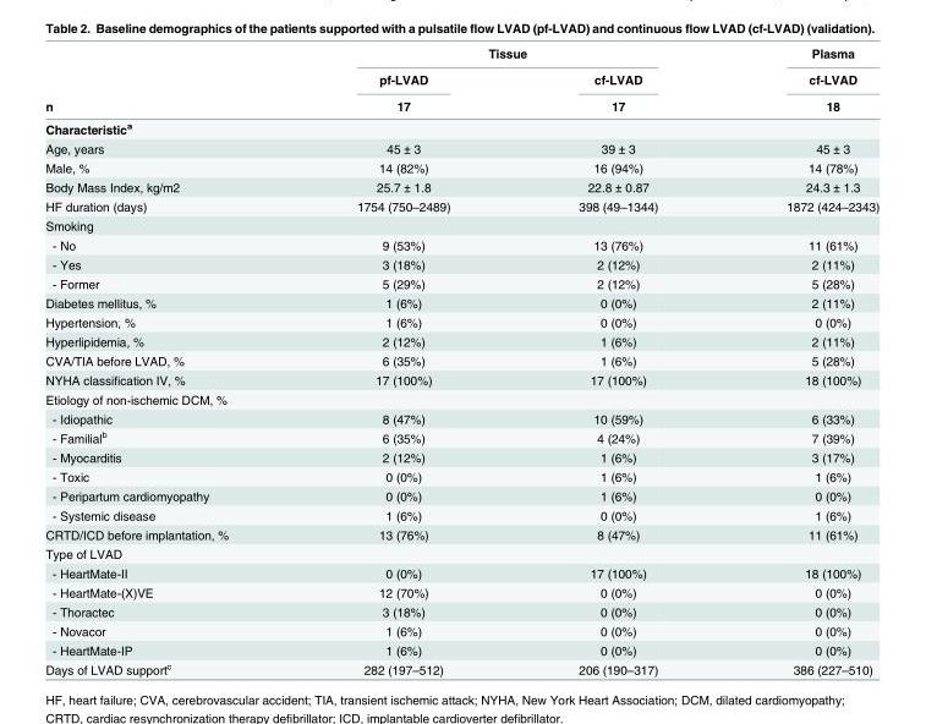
<table><thead><tr><td rowspan="4">n Characteristic<sup>a</sup></td><td colspan="2">Tissue</td><td rowspan="4">Plasma cf-LVAD 18</td></tr><tr><td rowspan="3">pf-LVAD 17</td><td rowspan="3">cf-LVAD 17</td></tr><tr></tr><tr></tr></thead><tbody><tr><td>Age, years</td><td>45 ± 3</td><td>39 ± 3</td><td>45 ± 3</td></tr><tr><td>Male, %</td><td>14 (82%)</td><td>16 (94%)</td><td>14 (78%)</td></tr><tr><td>Body Mass Index, kg/m2</td><td>25.7 ± 1.8</td><td>22.8 ± 0.87</td><td>24.3 ± 1.3</td></tr><tr><td>HF duration (days)</td><td>1754 (750–2489)</td><td>398 (49–1344)</td><td>1872 (424–2343)</td></tr><tr><td colspan="4">Smoking</td></tr><tr><td>- No</td><td>9 (53%)</td><td>13 (76%)</td><td>11 (61%)</td></tr><tr><td>- Yes</td><td>3 (18%)</td><td>2 (12%)</td><td>2 (11%)</td></tr><tr><td>- Former</td><td>5 (29%)</td><td>2 (12%)</td><td>5 (28%)</td></tr><tr><td>Diabetes mellitus, %</td><td>1 (6%)</td><td>0 (0%)</td><td>2 (11%)</td></tr><tr><td>Hypertension, %</td><td>1 (6%)</td><td>0 (0%)</td><td>0 (0%)</td></tr><tr><td>Hyperlipidemia, %</td><td>2 (12%)</td><td>1 (6%)</td><td>2 (11%)</td></tr><tr><td>CVA/TIA before LVAD, %</td><td>6 (35%)</td><td>1 (6%)</td><td>5 (28%)</td></tr><tr><td>NYHA classification IV, %</td><td>17 (100%)</td><td>17 (100%)</td><td>18 (100%)</td></tr><tr><td colspan="4">Etiology of non-ischemic DCM, %</td></tr><tr><td>- Idiopathic</td><td>8 (47%)</td><td>10 (59%)</td><td>6 (33%)</td></tr><tr><td>- Familial<sup>b</sup></td><td>6 (35%)</td><td>4 (24%)</td><td>7 (39%)</td></tr><tr><td>- Myocarditis</td><td>2 (12%)</td><td>1 (6%)</td><td>3 (17%)</td></tr><tr><td>- Toxic</td><td>0 (0%)</td><td>1 (6%)</td><td>1 (6%)</td></tr><tr><td>- Peripartum cardiomyopathy</td><td>0 (0%)</td><td>1 (6%)</td><td>0 (0%)</td></tr><tr><td>- Systemic disease</td><td>1 (6%)</td><td>0 (0%)</td><td>1 (6%)</td></tr><tr><td>CRTD/ICD before implantation, %</td><td>13 (76%)</td><td>8 (47%)</td><td>11 (61%)</td></tr><tr><td colspan="4">Type of LVAD</td></tr><tr><td>- HeartMate-II</td><td>0 (0%)</td><td>17 (100%)</td><td>18 (100%)</td></tr><tr><td>- HeartMate-(X)VE</td><td>12 (70%)</td><td>0 (0%)</td><td>0 (0%)</td></tr><tr><td>- Thoractec</td><td>3 (18%)</td><td>0 (0%)</td><td>0 (0%)</td></tr><tr><td>- Novacor</td><td>1 (6%)</td><td>0 (0%)</td><td>0 (0%)</td></tr><tr><td>- HeartMate-IP</td><td>1 (6%)</td><td>0 (0%)</td><td>0 (0%)</td></tr><tr><td>Days of LVAD support<sup>c</sup></td><td>282 (197–512)</td><td>206 (190–317)</td><td>386 (227–510)</td></tr></tbody></table>